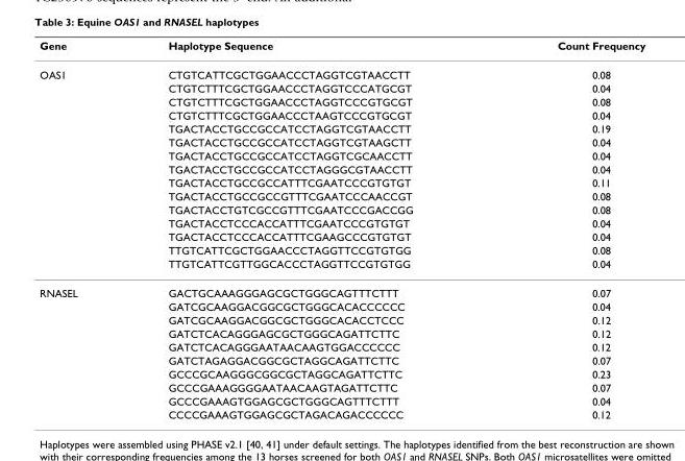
<table><thead><tr><td>Gene</td><td>Haplotype Sequence</td><td>Count Frequency</td></tr></thead><tbody><tr><td rowspan="15">OAS1</td><td>CTGTCATTCGCTGGAACCCTAGGTCGTAACCTT</td><td>0.08</td></tr><tr><td>CTGTCTTTCGCTGGAACCCTAGGTCCCATGCGT</td><td>0.04</td></tr><tr><td>CTGTCTTTCGCTGGAACCCTAGGTCCCGTGCGT</td><td>0.08</td></tr><tr><td>CTGTCTTTCGCTGGAACCCTAAGTCCCGTGCGT</td><td>0.04</td></tr><tr><td>TGACTACCTGCCGCCATCCTAGGTCGTAACCTT</td><td>0.19</td></tr><tr><td>TGACTACCTGCCGCCATCCTAGGTCGTAAGCTT</td><td>0.04</td></tr><tr><td>TGACTACCTGCCGCCATCCTAGGTCGCAACCTT</td><td>0.04</td></tr><tr><td>TGACTACCTGCCGCCATCCTAGGGCGTAACCTT</td><td>0.04</td></tr><tr><td>TGACTACCTGCCGCCATTTCGAATCCCGTGTGT</td><td>0.11</td></tr><tr><td>TGACTACCTGCCGCCGTTTCGAATCCCAACCGT</td><td>0.08</td></tr><tr><td>TGACTACCTGTCGCCGTTTCGAATCCCGACCGG</td><td>0.08</td></tr><tr><td>TGACTACCTCCCACCATTTCGAATCCCGTGTGT</td><td>0.04</td></tr><tr><td>TGACTACCTCCCACCATTTCGAAGCCCGTGTGT</td><td>0.04</td></tr><tr><td>TTGTCATTCGCTGGAACCCTAGGTTCCGTGTGG</td><td>0.08</td></tr><tr><td>TTGTCATTCGTTGGCACCCTAGGTTCCGTGTGG</td><td>0.04</td></tr><tr><td rowspan="10">RNASEL</td><td>GACTGCAAAGGGAGCGCTGGGCAGTTTCTTT</td><td>0.07</td></tr><tr><td>GATCGCAAGGACGGCGCTGGGCACACCCCCC</td><td>0.04</td></tr><tr><td>GATCGCAAGGACGGCGCTGGGCACACCTCCC</td><td>0.12</td></tr><tr><td>GATCTCACAGGGAGCGCTGGGCAGATTCTTC</td><td>0.12</td></tr><tr><td>GATCTCACAGGGAATAACAAGTGGACCCCCC</td><td>0.12</td></tr><tr><td>GATCTAGAGGACGGCGCTAGGCAGATTCTTC</td><td>0.07</td></tr><tr><td>GCCCGCAAGGGCGGCGCTAGGCAGATTCTTC</td><td>0.23</td></tr><tr><td>GCCCGAAAGGGGAATAACAAGTAGATTCTTC</td><td>0.07</td></tr><tr><td>GCCCGAAAGTGGAGCGCTGGGCAGTTTCTTT</td><td>0.04</td></tr><tr><td>CCCCGAAAGTGGAGCGCTAGACAGACCCCCC</td><td>0.12</td></tr></tbody></table>